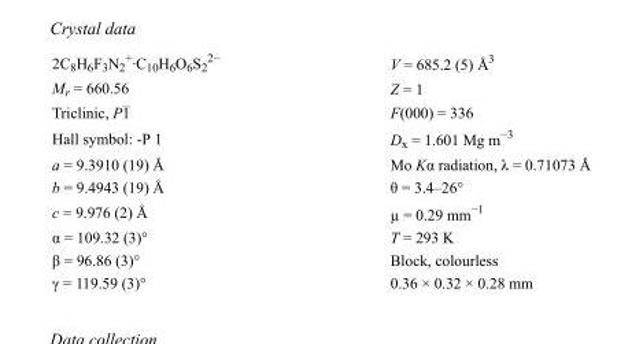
<table><tbody><tr><td>2C<sub>8</sub>H<sub>6</sub>F<sub>3</sub>N<sub>2</sub> <sup>+</sup>·C<sub>10</sub>H<sub>6</sub>O<sub>6</sub>S<sub>2</sub> <sup>2−</sup></td><td>V = 685.2 (5) Å<sup>3</sup></td></tr><tr><td>M<sub>r</sub> = 660.56</td><td>Z = 1</td></tr><tr><td>Triclinic, P1</td><td>F(000) = 336</td></tr><tr><td>Hall symbol: -P 1</td><td>D<sub>x</sub> = 1.601 Mg m<sup>−3</sup></td></tr><tr><td>a = 9.3910 (19) Å</td><td>Mo Kα radiation, λ = 0.71073 Å</td></tr><tr><td>b = 9.4943 (19) Å</td><td>θ = 3.4–26°</td></tr><tr><td>c = 9.976 (2) Å</td><td>µ = 0.29 mm<sup>−1</sup></td></tr><tr><td>α = 109.32 (3)°</td><td>T = 293 K</td></tr><tr><td>β = 96.86 (3)°</td><td>Block, colourless</td></tr><tr><td>γ = 119.59 (3)°</td><td>0.36 × 0.32 × 0.28 mm</td></tr></tbody></table>